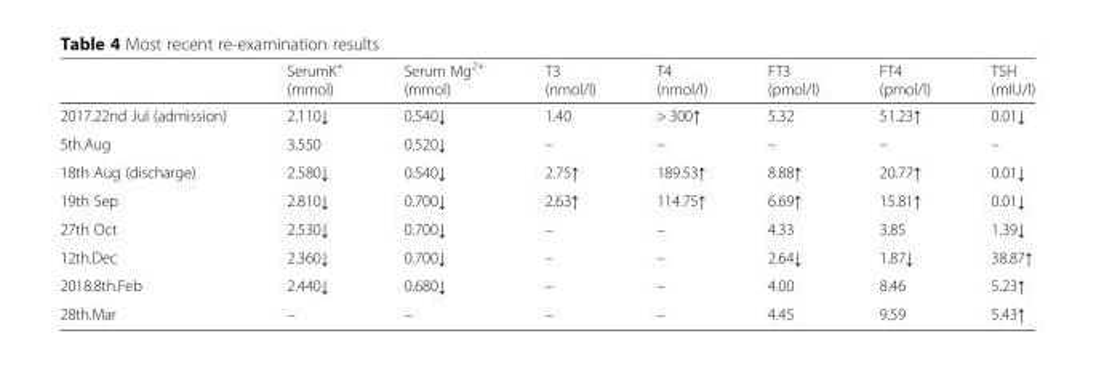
<table><thead><tr><td></td><td>SerumK<sup>+</sup> (mmol)</td><td>Serum Mg<sup>2+</sup> (mmol)</td><td>T3 (nmol/l)</td><td>T4 (nmol/l)</td><td>FT3 (pmol/l)</td><td>FT4 (pmol/l)</td><td>TSH (mIU/l)</td></tr></thead><tbody><tr><td>2017.22nd Jul (admission)</td><td>2.110↓</td><td>0.540↓</td><td>1.40</td><td>&gt; 300↑</td><td>5.32</td><td>51.23↑</td><td>0.01↓</td></tr><tr><td>5th.Aug</td><td>3.550</td><td>0.520↓</td><td>–</td><td>–</td><td>–</td><td>–</td><td>–</td></tr><tr><td>18th Aug (discharge)</td><td>2.580↓</td><td>0.540↓</td><td>2.75↑</td><td>189.53↑</td><td>8.88↑</td><td>20.77↑</td><td>0.01↓</td></tr><tr><td>19th Sep</td><td>2.810↓</td><td>0.700↓</td><td>2.63↑</td><td>114.75↑</td><td>6.69↑</td><td>15.81↑</td><td>0.01↓</td></tr><tr><td>27th Oct</td><td>2.530↓</td><td>0.700↓</td><td>–</td><td>–</td><td>4.33</td><td>3.85</td><td>1.39↓</td></tr><tr><td>12th.Dec</td><td>2.360↓</td><td>0.700↓</td><td>–</td><td>–</td><td>2.64↓</td><td>1.87↓</td><td>38.87↑</td></tr><tr><td>2018.8th.Feb</td><td>2.440↓</td><td>0.680↓</td><td>–</td><td>–</td><td>4.00</td><td>8.46</td><td>5.23↑</td></tr><tr><td>28th.Mar</td><td>–</td><td>–</td><td>–</td><td>–</td><td>4.45</td><td>9.59</td><td>5.43↑</td></tr></tbody></table>